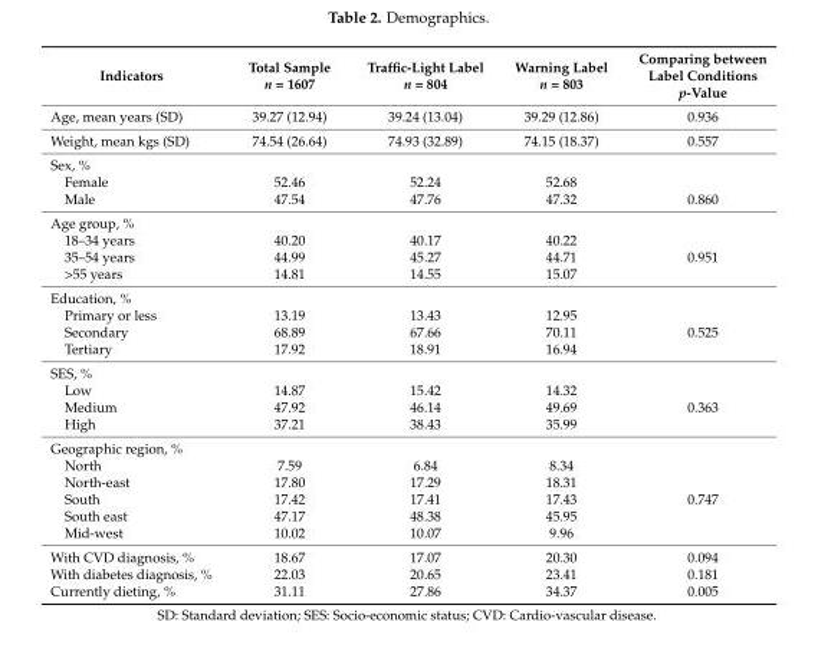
<table><thead><tr><td>Indicators</td><td>Total Sample n = 1607</td><td>Traffic-Light Label n = 804</td><td>Warning Label n = 803</td><td>Comparing between Label Conditions p-Value</td></tr></thead><tbody><tr><td>Age, mean years (SD)</td><td>39.27 (12.94)</td><td>39.24 (13.04)</td><td>39.29 (12.86)</td><td>0.936</td></tr><tr><td>Weight, mean kgs (SD)</td><td>74.54 (26.64)</td><td>74.93 (32.89)</td><td>74.15 (18.37)</td><td>0.557</td></tr><tr><td colspan="5">Sex, %</td></tr><tr><td>Female</td><td>52.46</td><td>52.24</td><td>52.68</td><td></td></tr><tr><td>Male</td><td>47.54</td><td>47.76</td><td>47.32</td><td>0.860</td></tr><tr><td colspan="5">Age group, %</td></tr><tr><td>18–34 years</td><td>40.20</td><td>40.17</td><td>40.22</td><td></td></tr><tr><td>35–54 years</td><td>44.99</td><td>45.27</td><td>44.71</td><td>0.951</td></tr><tr><td>&gt;55 years</td><td>14.81</td><td>14.55</td><td>15.07</td><td></td></tr><tr><td colspan="5">Education, %</td></tr><tr><td>Primary or less</td><td>13.19</td><td>13.43</td><td>12.95</td><td></td></tr><tr><td>Secondary</td><td>68.89</td><td>67.66</td><td>70.11</td><td>0.525</td></tr><tr><td>Tertiary</td><td>17.92</td><td>18.91</td><td>16.94</td><td></td></tr><tr><td colspan="5">SES, %</td></tr><tr><td>Low</td><td>14.87</td><td>15.42</td><td>14.32</td><td></td></tr><tr><td>Medium</td><td>47.92</td><td>46.14</td><td>49.69</td><td>0.363</td></tr><tr><td>High</td><td>37.21</td><td>38.43</td><td>35.99</td><td></td></tr><tr><td colspan="5">Geographic region, %</td></tr><tr><td>North</td><td>7.59</td><td>6.84</td><td>8.34</td><td></td></tr><tr><td>North-east</td><td>17.80</td><td>17.29</td><td>18.31</td><td></td></tr><tr><td>South</td><td>17.42</td><td>17.41</td><td>17.43</td><td>0.747</td></tr><tr><td>South east</td><td>47.17</td><td>48.38</td><td>45.95</td><td></td></tr><tr><td>Mid-west</td><td>10.02</td><td>10.07</td><td>9.96</td><td></td></tr><tr><td>With CVD diagnosis, %</td><td>18.67</td><td>17.07</td><td>20.30</td><td>0.094</td></tr><tr><td>With diabetes diagnosis, %</td><td>22.03</td><td>20.65</td><td>23.41</td><td>0.181</td></tr><tr><td>Currently dieting, %</td><td>31.11</td><td>27.86</td><td>34.37</td><td>0.005</td></tr></tbody></table>